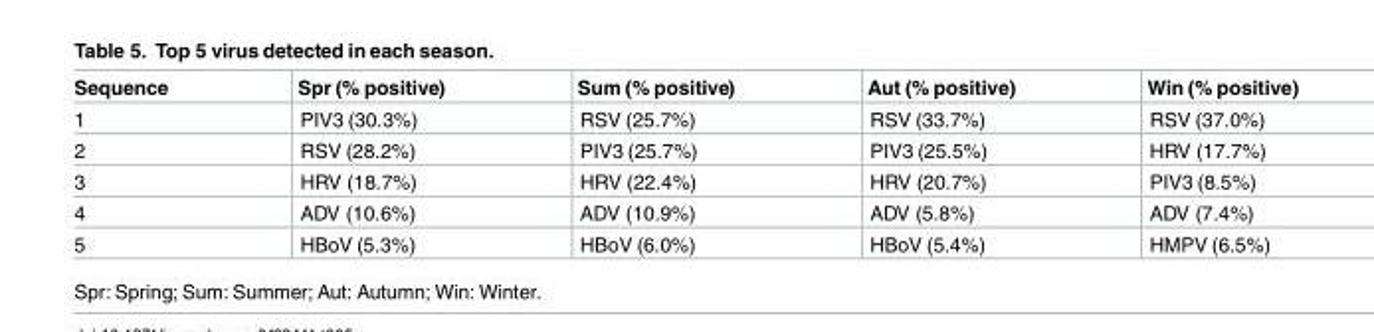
<table><thead><tr><td>Sequence</td><td>Spr (% positive)</td><td>Sum (% positive)</td><td>Aut (% positive)</td><td>Win (% positive)</td></tr></thead><tbody><tr><td>1</td><td>PIV3 (30.3%)</td><td>RSV (25.7%)</td><td>RSV (33.7%)</td><td>RSV (37.0%)</td></tr><tr><td>2</td><td>RSV (28.2%)</td><td>PIV3 (25.7%)</td><td>PIV3 (25.5%)</td><td>HRV (17.7%)</td></tr><tr><td>3</td><td>HRV (18.7%)</td><td>HRV (22.4%)</td><td>HRV (20.7%)</td><td>PIV3 (8.5%)</td></tr><tr><td>4</td><td>ADV (10.6%)</td><td>ADV (10.9%)</td><td>ADV (5.8%)</td><td>ADV (7.4%)</td></tr><tr><td>5</td><td>HBoV (5.3%)</td><td>HBoV (6.0%)</td><td>HBoV (5.4%)</td><td>HMPV (6.5%)</td></tr></tbody></table>